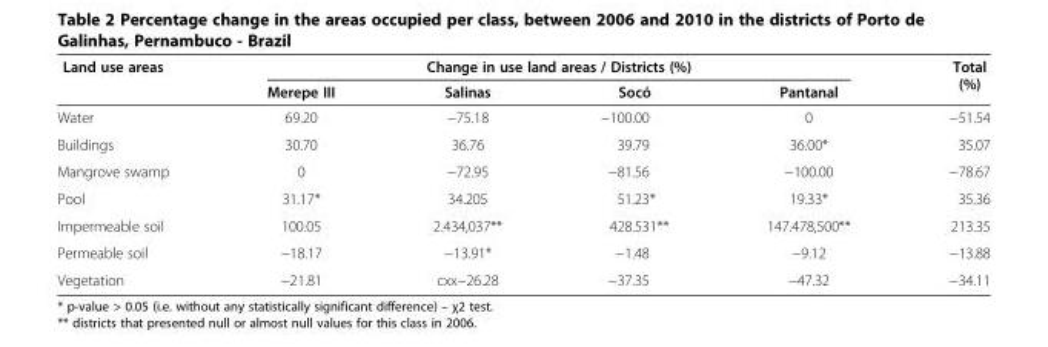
<table><thead><tr><td rowspan="2">Land use areas</td><td colspan="4">Change in use land areas / Districts (%)</td><td rowspan="2">Total (%)</td></tr><tr><td>Merepe III</td><td>Salinas</td><td>Socó</td><td>Pantanal</td></tr></thead><tbody><tr><td>Water</td><td>69.20</td><td>−75.18</td><td>−100.00</td><td>0</td><td>−51.54</td></tr><tr><td>Buildings</td><td>30.70</td><td>36.76</td><td>39.79</td><td>36.00*</td><td>35.07</td></tr><tr><td>Mangrove swamp</td><td>0</td><td>−72.95</td><td>−81.56</td><td>−100.00</td><td>−78.67</td></tr><tr><td>Pool</td><td>31.17*</td><td>34.205</td><td>51.23*</td><td>19.33*</td><td>35.36</td></tr><tr><td>Impermeable soil</td><td>100.05</td><td>2.434,037**</td><td>428.531**</td><td>147.478,500**</td><td>213.35</td></tr><tr><td>Permeable soil</td><td>−18.17</td><td>−13.91*</td><td>−1.48</td><td>−9.12</td><td>−13.88</td></tr><tr><td>Vegetation</td><td>−21.81</td><td>cxx−26.28</td><td>−37.35</td><td>−47.32</td><td>−34.11</td></tr></tbody></table>